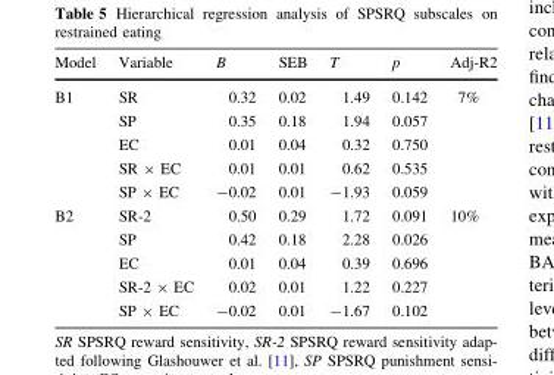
<table><thead><tr><td>Model</td><td>Variable</td><td>B</td><td>SEB</td><td>T</td><td>p</td><td>Adj-R2</td></tr></thead><tbody><tr><td rowspan="5">B1</td><td>SR</td><td>0.32</td><td>0.02</td><td>1.49</td><td>0.142</td><td rowspan="5">7%</td></tr><tr><td>SP</td><td>0.35</td><td>0.18</td><td>1.94</td><td>0.057</td></tr><tr><td>EC</td><td>0.01</td><td>0.04</td><td>0.32</td><td>0.750</td></tr><tr><td>SR × EC</td><td>0.01</td><td>0.01</td><td>0.62</td><td>0.535</td></tr><tr><td>SP × EC</td><td>-0.02</td><td>0.01</td><td>-1.93</td><td>0.059</td></tr><tr><td rowspan="5">B2</td><td>SR-2</td><td>0.50</td><td>0.29</td><td>1.72</td><td>0.091</td><td rowspan="5">10%</td></tr><tr><td>SP</td><td>0.42</td><td>0.18</td><td>2.28</td><td>0.026</td></tr><tr><td>EC</td><td>0.01</td><td>0.04</td><td>0.39</td><td>0.696</td></tr><tr><td>SR-2 × EC</td><td>0.02</td><td>0.01</td><td>1.22</td><td>0.227</td></tr><tr><td>SP × EC</td><td>-0.02</td><td>0.01</td><td>-1.67</td><td>0.102</td></tr></tbody></table>